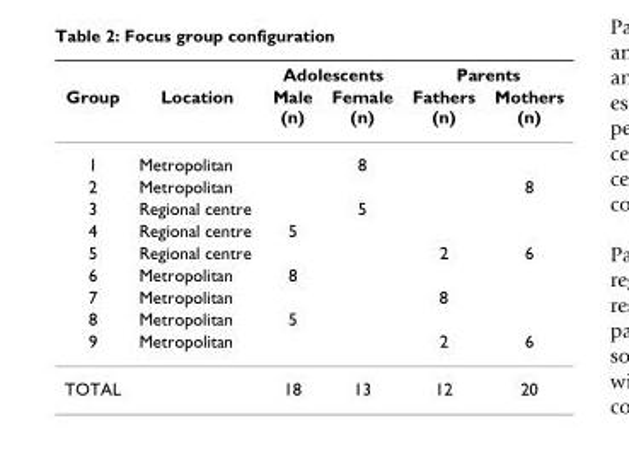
<table><thead><tr><td rowspan="2">Group</td><td rowspan="2">Location</td><td colspan="2">Adolescents</td><td colspan="2">Parents</td></tr><tr><td>Male (n)</td><td>Female (n)</td><td>Fathers (n)</td><td>Mothers (n)</td></tr></thead><tbody><tr><td>1</td><td>Metropolitan</td><td></td><td>8</td><td></td><td></td></tr><tr><td>2</td><td>Metropolitan</td><td></td><td></td><td></td><td>8</td></tr><tr><td>3</td><td>Regional centre</td><td></td><td>5</td><td></td><td></td></tr><tr><td>4</td><td>Regional centre</td><td>5</td><td></td><td></td><td></td></tr><tr><td>5</td><td>Regional centre</td><td></td><td></td><td>2</td><td>6</td></tr><tr><td>6</td><td>Metropolitan</td><td>8</td><td></td><td></td><td></td></tr><tr><td>7</td><td>Metropolitan</td><td></td><td></td><td>8</td><td></td></tr><tr><td>8</td><td>Metropolitan</td><td>5</td><td></td><td></td><td></td></tr><tr><td>9</td><td>Metropolitan</td><td></td><td></td><td>2</td><td>6</td></tr><tr><td>TOTAL</td><td></td><td>18</td><td>13</td><td>12</td><td>20</td></tr></tbody></table>